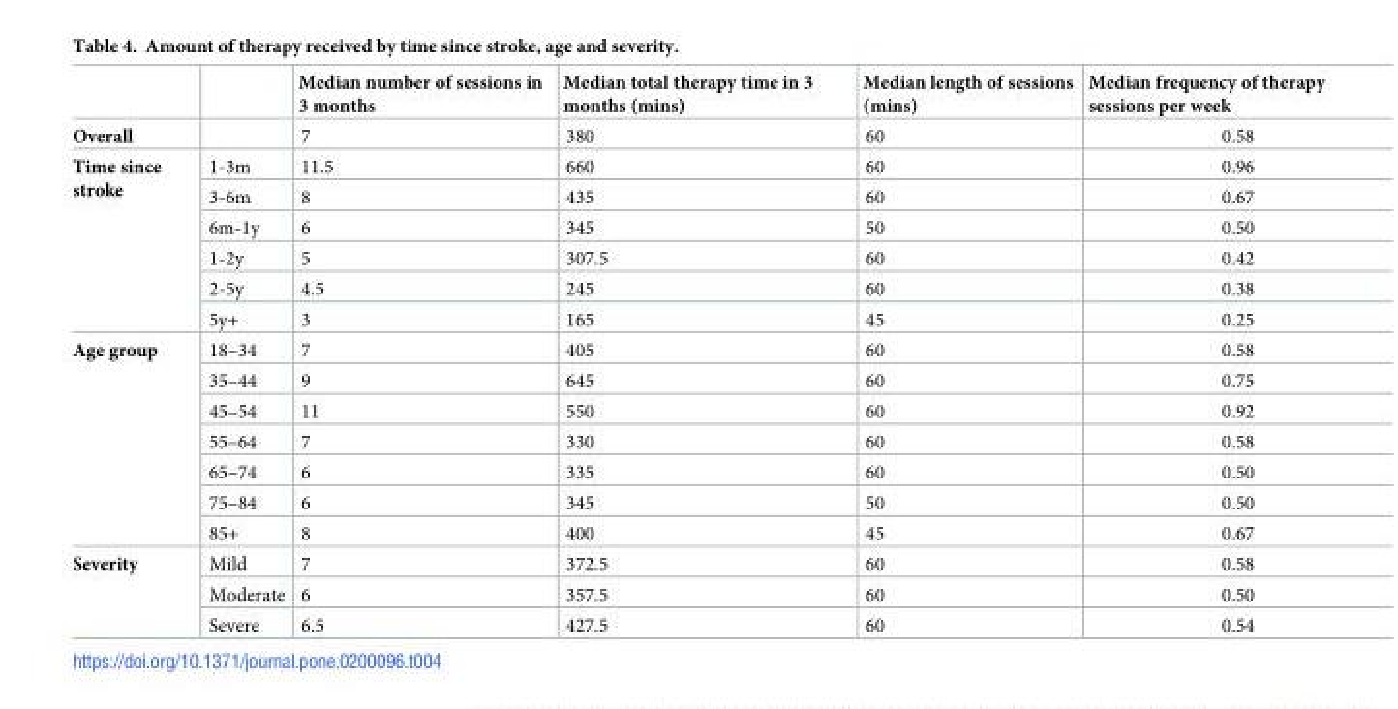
<table><thead><tr><td></td><td></td><td>Median number of sessions in 3 months</td><td>Median total therapy time in 3 months (mins)</td><td>Median length of sessions (mins)</td><td>Median frequency of therapy sessions per week</td></tr></thead><tbody><tr><td>Overall</td><td></td><td>7</td><td>380</td><td>60</td><td>0.58</td></tr><tr><td rowspan="6">Time since stroke</td><td>1-3m</td><td>11.5</td><td>660</td><td>60</td><td>0.96</td></tr><tr><td>3-6m</td><td>8</td><td>435</td><td>60</td><td>0.67</td></tr><tr><td>6m-1y</td><td>6</td><td>345</td><td>50</td><td>0.50</td></tr><tr><td>1-2y</td><td>5</td><td>307.5</td><td>60</td><td>0.42</td></tr><tr><td>2-5y</td><td>4.5</td><td>245</td><td>60</td><td>0.38</td></tr><tr><td>5y+</td><td>3</td><td>165</td><td>45</td><td>0.25</td></tr><tr><td rowspan="7">Age group</td><td>18–34</td><td>7</td><td>405</td><td>60</td><td>0.58</td></tr><tr><td>35–44</td><td>9</td><td>645</td><td>60</td><td>0.75</td></tr><tr><td>45–54</td><td>11</td><td>550</td><td>60</td><td>0.92</td></tr><tr><td>55–64</td><td>7</td><td>330</td><td>60</td><td>0.58</td></tr><tr><td>65–74</td><td>6</td><td>335</td><td>60</td><td>0.50</td></tr><tr><td>75–84</td><td>6</td><td>345</td><td>50</td><td>0.50</td></tr><tr><td>85+</td><td>8</td><td>400</td><td>45</td><td>0.67</td></tr><tr><td rowspan="3">Severity</td><td>Mild</td><td>7</td><td>372.5</td><td>60</td><td>0.58</td></tr><tr><td>Moderate</td><td>6</td><td>357.5</td><td>60</td><td>0.50</td></tr><tr><td>Severe</td><td>6.5</td><td>427.5</td><td>60</td><td>0.54</td></tr></tbody></table>